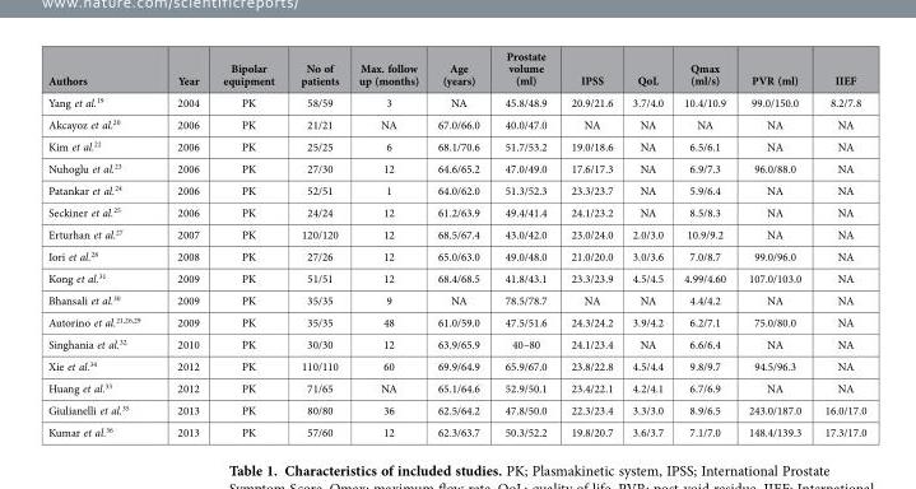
<table><thead><tr><td>Authors</td><td>Year</td><td>Bipolar equipment</td><td>No of patients</td><td>Max. follow up (months)</td><td>Age (years)</td><td>Prostate volume (ml)</td><td>IPSS</td><td>QoL</td><td>Qmax (ml/s)</td><td>PVR (ml)</td><td>IIEF</td></tr></thead><tbody><tr><td>Yang et al.<sup>19</sup></td><td>2004</td><td>PK</td><td>58/59</td><td>3</td><td>NA</td><td>45.8/48.9</td><td>20.9/21.6</td><td>3.7/4.0</td><td>10.4/10.9</td><td>99.0/150.0</td><td>8.2/7.8</td></tr><tr><td>Akcayoz et al.<sup>20</sup></td><td>2006</td><td>PK</td><td>21/21</td><td>NA</td><td>67.0/66.0</td><td>40.0/47.0</td><td>NA</td><td>NA</td><td>NA</td><td>NA</td><td>NA</td></tr><tr><td>Kim et al.<sup>22</sup></td><td>2006</td><td>PK</td><td>25/25</td><td>6</td><td>68.1/70.6</td><td>51.7/53.2</td><td>19.0/18.6</td><td>NA</td><td>6.5/6.1</td><td>NA</td><td>NA</td></tr><tr><td>Nuhoglu et al.<sup>23</sup></td><td>2006</td><td>PK</td><td>27/30</td><td>12</td><td>64.6/65.2</td><td>47.0/49.0</td><td>17.6/17.3</td><td>NA</td><td>6.9/7.3</td><td>96.0/88.0</td><td>NA</td></tr><tr><td>Patankar et al.<sup>24</sup></td><td>2006</td><td>PK</td><td>52/51</td><td>1</td><td>64.0/62.0</td><td>51.3/52.3</td><td>23.3/23.7</td><td>NA</td><td>5.9/6.4</td><td>NA</td><td>NA</td></tr><tr><td>Seckiner et al.<sup>25</sup></td><td>2006</td><td>PK</td><td>24/24</td><td>12</td><td>61.2/63.9</td><td>49.4/41.4</td><td>24.1/23.2</td><td>NA</td><td>8.5/8.3</td><td>NA</td><td>NA</td></tr><tr><td>Erturhan et al.<sup>27</sup></td><td>2007</td><td>PK</td><td>120/120</td><td>12</td><td>68.5/67.4</td><td>43.0/42.0</td><td>23.0/24.0</td><td>2.0/3.0</td><td>10.9/9.2</td><td>NA</td><td>NA</td></tr><tr><td>Iori et al.<sup>28</sup></td><td>2008</td><td>PK</td><td>27/26</td><td>12</td><td>65.0/63.0</td><td>49.0/48.0</td><td>21.0/20.0</td><td>3.0/3.6</td><td>7.0/8.7</td><td>99.0/96.0</td><td>NA</td></tr><tr><td>Kong et al.<sup>31</sup></td><td>2009</td><td>PK</td><td>51/51</td><td>12</td><td>68.4/68.5</td><td>41.8/43.1</td><td>23.3/23.9</td><td>4.5/4.5</td><td>4.99/4.60</td><td>107.0/103.0</td><td>NA</td></tr><tr><td>Bhansali et al.<sup>30</sup></td><td>2009</td><td>PK</td><td>35/35</td><td>9</td><td>NA</td><td>78.5/78.7</td><td>NA</td><td>NA</td><td>4.4/4.2</td><td>NA</td><td>NA</td></tr><tr><td>Autorino et al.<sup>21</sup>,<sup>26</sup>,<sup>29</sup></td><td>2009</td><td>PK</td><td>35/35</td><td>48</td><td>61.0/59.0</td><td>47.5/51.6</td><td>24.3/24.2</td><td>3.9/4.2</td><td>6.2/7.1</td><td>75.0/80.0</td><td>NA</td></tr><tr><td>Singhania et al.<sup>32</sup></td><td>2010</td><td>PK</td><td>30/30</td><td>12</td><td>63.9/65.9</td><td>40–80</td><td>24.1/23.4</td><td>NA</td><td>6.6/6.4</td><td>NA</td><td>NA</td></tr><tr><td>Xie et al.<sup>34</sup></td><td>2012</td><td>PK</td><td>110/110</td><td>60</td><td>69.9/64.9</td><td>65.9/67.0</td><td>23.8/22.8</td><td>4.5/4.4</td><td>9.8/9.7</td><td>94.5/96.3</td><td>NA</td></tr><tr><td>Huang et al.<sup>33</sup></td><td>2012</td><td>PK</td><td>71/65</td><td>NA</td><td>65.1/64.6</td><td>52.9/50.1</td><td>23.4/22.1</td><td>4.2/4.1</td><td>6.7/6.9</td><td>NA</td><td>NA</td></tr><tr><td>Giulianelli et al.<sup>35</sup></td><td>2013</td><td>PK</td><td>80/80</td><td>36</td><td>62.5/64.2</td><td>47.8/50.0</td><td>22.3/23.4</td><td>3.3/3.0</td><td>8.9/6.5</td><td>243.0/187.0</td><td>16.0/17.0</td></tr><tr><td>Kumar et al.<sup>36</sup></td><td>2013</td><td>PK</td><td>57/60</td><td>12</td><td>62.3/63.7</td><td>50.3/52.2</td><td>19.8/20.7</td><td>3.6/3.7</td><td>7.1/7.0</td><td>148.4/139.3</td><td>17.3/17.0</td></tr></tbody></table>